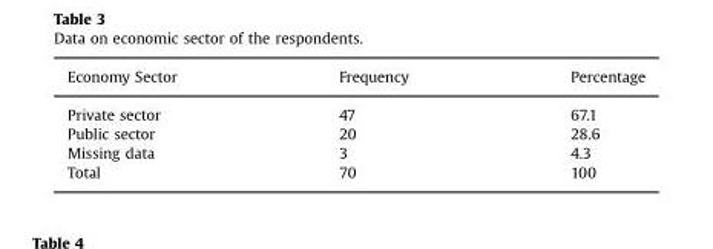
<table><thead><tr><td>Economy Sector</td><td>Frequency</td><td>Percentage</td></tr></thead><tbody><tr><td>Private sector</td><td>47</td><td>67.1</td></tr><tr><td>Public sector</td><td>20</td><td>28.6</td></tr><tr><td>Missing data</td><td>3</td><td>4.3</td></tr><tr><td>Total</td><td>70</td><td>100</td></tr></tbody></table>